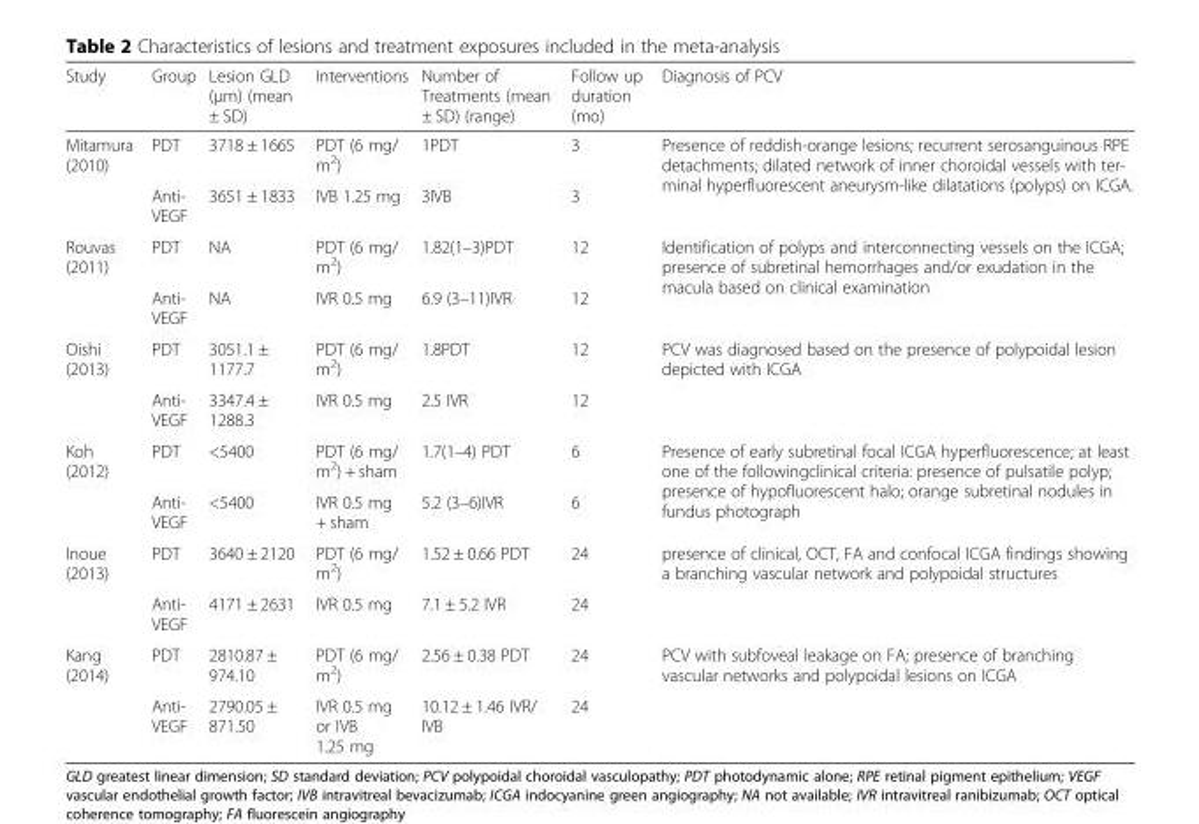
<table><thead><tr><td>Study</td><td>Group</td><td>Lesion GLD (μm) (mean ± SD)</td><td>Interventions</td><td>Number of Treatments (mean ± SD) (range)</td><td>Follow up duration (mo)</td><td>Diagnosis of PCV</td></tr></thead><tbody><tr><td rowspan="2">Mitamura (2010)</td><td>PDT</td><td>3718 ± 1665</td><td>PDT (6 mg/ m<sup>2</sup>)</td><td>1PDT</td><td>3</td><td rowspan="2">Presence of reddish-orange lesions; recurrent serosanguinous RPE detachments; dilated network of inner choroidal vessels with ter- minal hyperfluorescent aneurysm-like dilatations (polyps) on ICGA.</td></tr><tr><td>Anti- VEGF</td><td>3651 ± 1833</td><td>IVB 1.25 mg</td><td>3IVB</td><td>3</td></tr><tr><td rowspan="2">Rouvas (2011)</td><td>PDT</td><td>NA</td><td>PDT (6 mg/ m<sup>2</sup>)</td><td>1.82(1–3)PDT</td><td>12</td><td rowspan="2">Identification of polyps and interconnecting vessels on the ICGA; presence of subretinal hemorrhages and/or exudation in the macula based on clinical examination</td></tr><tr><td>Anti- VEGF</td><td>NA</td><td>IVR 0.5 mg</td><td>6.9 (3–11)IVR</td><td>12</td></tr><tr><td rowspan="2">Oishi (2013)</td><td>PDT</td><td>3051.1 ± 1177.7</td><td>PDT (6 mg/ m<sup>2</sup>)</td><td>1.8PDT</td><td>12</td><td rowspan="2">PCV was diagnosed based on the presence of polypoidal lesion depicted with ICGA</td></tr><tr><td>Anti- VEGF</td><td>3347.4 ± 1288.3</td><td>IVR 0.5 mg</td><td>2.5 IVR</td><td>12</td></tr><tr><td rowspan="2">Koh (2012)</td><td>PDT</td><td>&lt;5400</td><td>PDT (6 mg/ m<sup>2</sup>) + sham</td><td>1.7(1–4) PDT</td><td>6</td><td rowspan="2">Presence of early subretinal focal ICGA hyperfluorescence; at least one of the followingclinical criteria: presence of pulsatile polyp; presence of hypofluorescent halo; orange subretinal nodules in fundus photograph</td></tr><tr><td>Anti- VEGF</td><td>&lt;5400</td><td>IVR 0.5 mg + sham</td><td>5.2 (3–6)IVR</td><td>6</td></tr><tr><td rowspan="2">Inoue (2013)</td><td>PDT</td><td>3640 ± 2120</td><td>PDT (6 mg/ m<sup>2</sup>)</td><td>1.52 ± 0.66 PDT</td><td>24</td><td rowspan="2">presence of clinical, OCT, FA and confocal ICGA findings showing a branching vascular network and polypoidal structures</td></tr><tr><td>Anti- VEGF</td><td>4171 ± 2631</td><td>IVR 0.5 mg</td><td>7.1 ± 5.2 IVR</td><td>24</td></tr><tr><td rowspan="2">Kang (2014)</td><td>PDT</td><td>2810.87 ± 974.10</td><td>PDT (6 mg/ m<sup>2</sup>)</td><td>2.56 ± 0.38 PDT</td><td>24</td><td rowspan="2">PCV with subfoveal leakage on FA; presence of branching vascular networks and polypoidal lesions on ICGA</td></tr><tr><td>Anti- VEGF</td><td>2790.05 ± 871.50</td><td>IVR 0.5 mg or IVB 1.25 mg</td><td>10.12 ± 1.46 IVR/ IVB</td><td>24</td></tr></tbody></table>